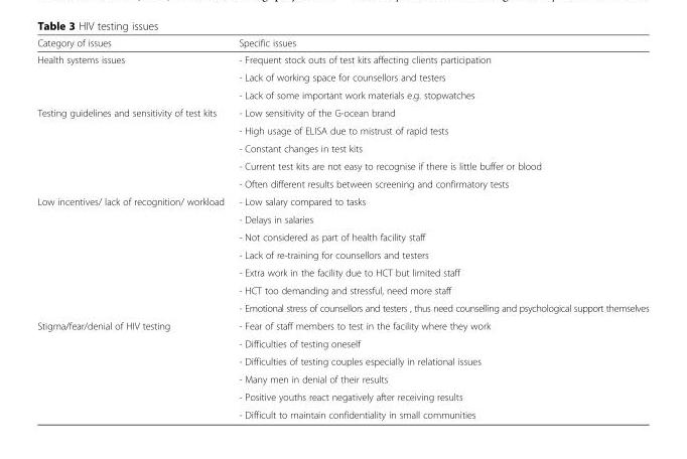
<table><thead><tr><td>Category of issues</td><td>Specific issues</td></tr></thead><tbody><tr><td rowspan="3">Health systems issues</td><td>- Frequent stock outs of test kits affecting clients participation</td></tr><tr><td>- Lack of working space for counsellors and testers</td></tr><tr><td>- Lack of some important work materials e.g. stopwatches</td></tr><tr><td rowspan="5">Testing guidelines and sensitivity of test kits</td><td>- Low sensitivity of the G-ocean brand</td></tr><tr><td>- High usage of ELISA due to mistrust of rapid tests</td></tr><tr><td>- Constant changes in test kits</td></tr><tr><td>- Current test kits are not easy to recognise if there is little buffer or blood</td></tr><tr><td>- Often different results between screening and confirmatory tests</td></tr><tr><td rowspan="7">Low incentives/ lack of recognition/ workload</td><td>- Low salary compared to tasks</td></tr><tr><td>- Delays in salaries</td></tr><tr><td>- Not considered as part of health facility staff</td></tr><tr><td>- Lack of re-training for counsellors and testers</td></tr><tr><td>- Extra work in the facility due to HCT but limited staff</td></tr><tr><td>- HCT too demanding and stressful, need more staff</td></tr><tr><td>- Emotional stress of counsellors and testers , thus need counselling and psychological support themselves</td></tr><tr><td rowspan="6">Stigma/fear/denial of HIV testing</td><td>- Fear of staff members to test in the facility where they work</td></tr><tr><td>- Difficulties of testing oneself</td></tr><tr><td>- Difficulties of testing couples especially in relational issues</td></tr><tr><td>- Many men in denial of their results</td></tr><tr><td>- Positive youths react negatively after receiving results</td></tr><tr><td>- Difficult to maintain confidentiality in small communities</td></tr></tbody></table>